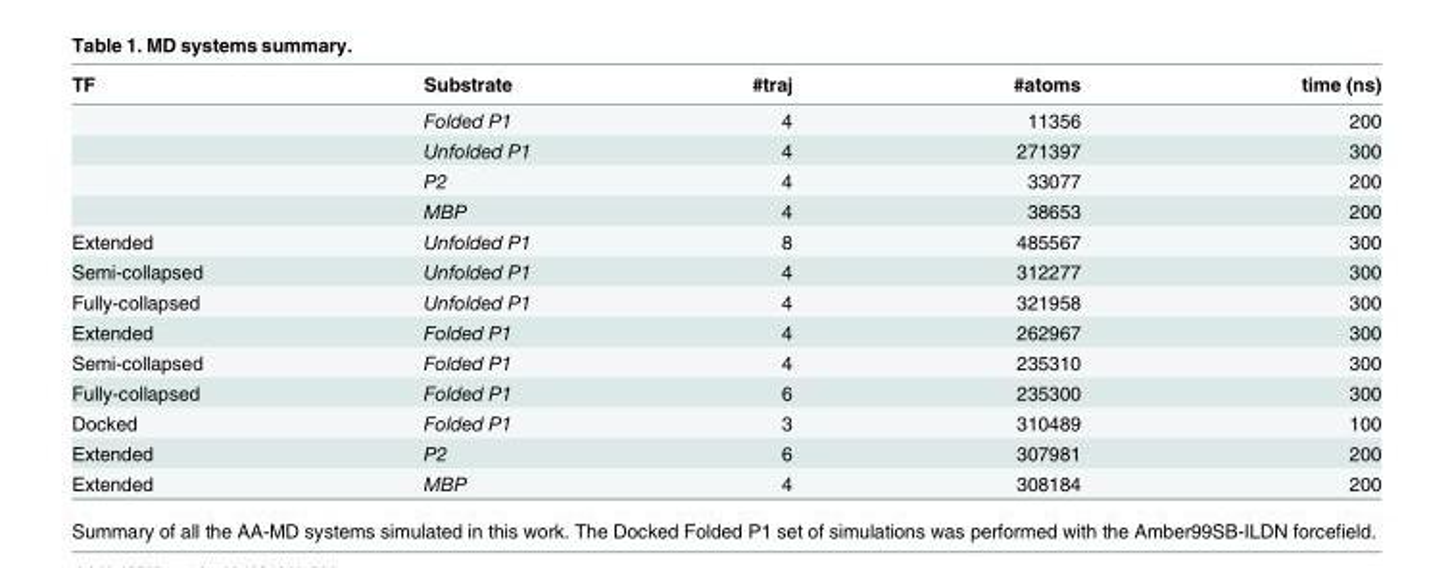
<table><thead><tr><td>TF</td><td>Substrate</td><td>#traj</td><td>#atoms</td><td>time (ns)</td></tr></thead><tbody><tr><td></td><td>Folded P1</td><td>4</td><td>11356</td><td>200</td></tr><tr><td></td><td>Unfolded P1</td><td>4</td><td>271397</td><td>300</td></tr><tr><td></td><td>P2</td><td>4</td><td>33077</td><td>200</td></tr><tr><td></td><td>MBP</td><td>4</td><td>38653</td><td>200</td></tr><tr><td>Extended</td><td>Unfolded P1</td><td>8</td><td>485567</td><td>300</td></tr><tr><td>Semi-collapsed</td><td>Unfolded P1</td><td>4</td><td>312277</td><td>300</td></tr><tr><td>Fully-collapsed</td><td>Unfolded P1</td><td>4</td><td>321958</td><td>300</td></tr><tr><td>Extended</td><td>Folded P1</td><td>4</td><td>262967</td><td>300</td></tr><tr><td>Semi-collapsed</td><td>Folded P1</td><td>4</td><td>235310</td><td>300</td></tr><tr><td>Fully-collapsed</td><td>Folded P1</td><td>6</td><td>235300</td><td>300</td></tr><tr><td>Docked</td><td>Folded P1</td><td>3</td><td>310489</td><td>100</td></tr><tr><td>Extended</td><td>P2</td><td>6</td><td>307981</td><td>200</td></tr><tr><td>Extended</td><td>MBP</td><td>4</td><td>308184</td><td>200</td></tr></tbody></table>